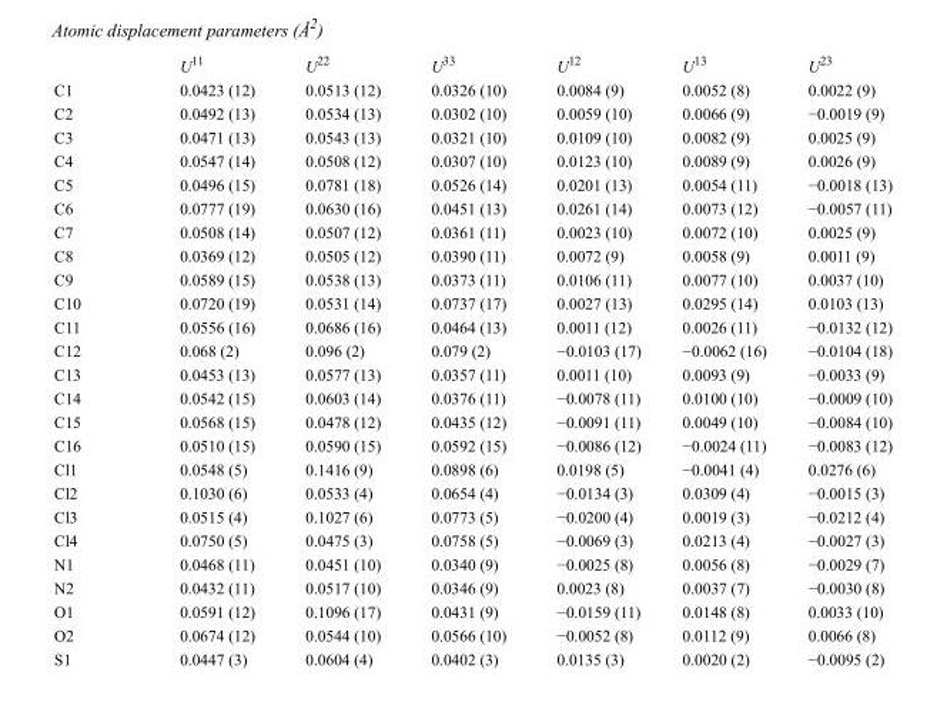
<table><thead><tr><td></td><td>U<sup>11</sup></td><td>U<sup>22</sup></td><td>U<sup>33</sup></td><td>U<sup>12</sup></td><td>U<sup>13</sup></td><td>U<sup>23</sup></td></tr></thead><tbody><tr><td>C1</td><td>0.0423 (12)</td><td>0.0513 (12)</td><td>0.0326 (10)</td><td>0.0084 (9)</td><td>0.0052 (8)</td><td>0.0022 (9)</td></tr><tr><td>C2</td><td>0.0492 (13)</td><td>0.0534 (13)</td><td>0.0302 (10)</td><td>0.0059 (10)</td><td>0.0066 (9)</td><td>−0.0019 (9)</td></tr><tr><td>C3</td><td>0.0471 (13)</td><td>0.0543 (13)</td><td>0.0321 (10)</td><td>0.0109 (10)</td><td>0.0082 (9)</td><td>0.0025 (9)</td></tr><tr><td>C4</td><td>0.0547 (14)</td><td>0.0508 (12)</td><td>0.0307 (10)</td><td>0.0123 (10)</td><td>0.0089 (9)</td><td>0.0026 (9)</td></tr><tr><td>C5</td><td>0.0496 (15)</td><td>0.0781 (18)</td><td>0.0526 (14)</td><td>0.0201 (13)</td><td>0.0054 (11)</td><td>−0.0018 (13)</td></tr><tr><td>C6</td><td>0.0777 (19)</td><td>0.0630 (16)</td><td>0.0451 (13)</td><td>0.0261 (14)</td><td>0.0073 (12)</td><td>−0.0057 (11)</td></tr><tr><td>C7</td><td>0.0508 (14)</td><td>0.0507 (12)</td><td>0.0361 (11)</td><td>0.0023 (10)</td><td>0.0072 (10)</td><td>0.0025 (9)</td></tr><tr><td>C8</td><td>0.0369 (12)</td><td>0.0505 (12)</td><td>0.0390 (11)</td><td>0.0072 (9)</td><td>0.0058 (9)</td><td>0.0011 (9)</td></tr><tr><td>C9</td><td>0.0589 (15)</td><td>0.0538 (13)</td><td>0.0373 (11)</td><td>0.0106 (11)</td><td>0.0077 (10)</td><td>0.0037 (10)</td></tr><tr><td>C10</td><td>0.0720 (19)</td><td>0.0531 (14)</td><td>0.0737 (17)</td><td>0.0027 (13)</td><td>0.0295 (14)</td><td>0.0103 (13)</td></tr><tr><td>C11</td><td>0.0556 (16)</td><td>0.0686 (16)</td><td>0.0464 (13)</td><td>0.0011 (12)</td><td>0.0026 (11)</td><td>−0.0132 (12)</td></tr><tr><td>C12</td><td>0.068 (2)</td><td>0.096 (2)</td><td>0.079 (2)</td><td>−0.0103 (17)</td><td>−0.0062 (16)</td><td>−0.0104 (18)</td></tr><tr><td>C13</td><td>0.0453 (13)</td><td>0.0577 (13)</td><td>0.0357 (11)</td><td>0.0011 (10)</td><td>0.0093 (9)</td><td>−0.0033 (9)</td></tr><tr><td>C14</td><td>0.0542 (15)</td><td>0.0603 (14)</td><td>0.0376 (11)</td><td>−0.0078 (11)</td><td>0.0100 (10)</td><td>−0.0009 (10)</td></tr><tr><td>C15</td><td>0.0568 (15)</td><td>0.0478 (12)</td><td>0.0435 (12)</td><td>−0.0091 (11)</td><td>0.0049 (10)</td><td>−0.0084 (10)</td></tr><tr><td>C16</td><td>0.0510 (15)</td><td>0.0590 (15)</td><td>0.0592 (15)</td><td>−0.0086 (12)</td><td>−0.0024 (11)</td><td>−0.0083 (12)</td></tr><tr><td>Cl1</td><td>0.0548 (5)</td><td>0.1416 (9)</td><td>0.0898 (6)</td><td>0.0198 (5)</td><td>−0.0041 (4)</td><td>0.0276 (6)</td></tr><tr><td>Cl2</td><td>0.1030 (6)</td><td>0.0533 (4)</td><td>0.0654 (4)</td><td>−0.0134 (3)</td><td>0.0309 (4)</td><td>−0.0015 (3)</td></tr><tr><td>Cl3</td><td>0.0515 (4)</td><td>0.1027 (6)</td><td>0.0773 (5)</td><td>−0.0200 (4)</td><td>0.0019 (3)</td><td>−0.0212 (4)</td></tr><tr><td>Cl4</td><td>0.0750 (5)</td><td>0.0475 (3)</td><td>0.0758 (5)</td><td>−0.0069 (3)</td><td>0.0213 (4)</td><td>−0.0027 (3)</td></tr><tr><td>N1</td><td>0.0468 (11)</td><td>0.0451 (10)</td><td>0.0340 (9)</td><td>−0.0025 (8)</td><td>0.0056 (8)</td><td>−0.0029 (7)</td></tr><tr><td>N2</td><td>0.0432 (11)</td><td>0.0517 (10)</td><td>0.0346 (9)</td><td>0.0023 (8)</td><td>0.0037 (7)</td><td>−0.0030 (8)</td></tr><tr><td>O1</td><td>0.0591 (12)</td><td>0.1096 (17)</td><td>0.0431 (9)</td><td>−0.0159 (11)</td><td>0.0148 (8)</td><td>0.0033 (10)</td></tr><tr><td>O2</td><td>0.0674 (12)</td><td>0.0544 (10)</td><td>0.0566 (10)</td><td>−0.0052 (8)</td><td>0.0112 (9)</td><td>0.0066 (8)</td></tr><tr><td>S1</td><td>0.0447 (3)</td><td>0.0604 (4)</td><td>0.0402 (3)</td><td>0.0135 (3)</td><td>0.0020 (2)</td><td>−0.0095 (2)</td></tr></tbody></table>